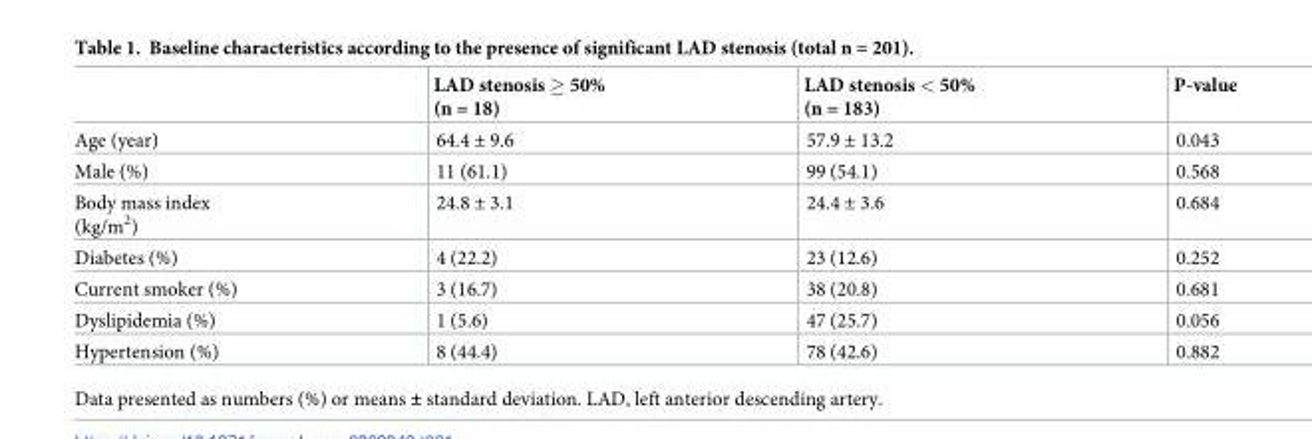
<table><thead><tr><td></td><td>LAD stenosis ≥ 50% (n = 18)</td><td>LAD stenosis &lt; 50% (n = 183)</td><td>P-value</td></tr></thead><tbody><tr><td>Age (year)</td><td>64.4 ± 9.6</td><td>57.9 ± 13.2</td><td>0.043</td></tr><tr><td>Male (%)</td><td>11 (61.1)</td><td>99 (54.1)</td><td>0.568</td></tr><tr><td>Body mass index (kg/m<sup>2</sup>)</td><td>24.8 ± 3.1</td><td>24.4 ± 3.6</td><td>0.684</td></tr><tr><td>Diabetes (%)</td><td>4 (22.2)</td><td>23 (12.6)</td><td>0.252</td></tr><tr><td>Current smoker (%)</td><td>3 (16.7)</td><td>38 (20.8)</td><td>0.681</td></tr><tr><td>Dyslipidemia (%)</td><td>1 (5.6)</td><td>47 (25.7)</td><td>0.056</td></tr><tr><td>Hypertension (%)</td><td>8 (44.4)</td><td>78 (42.6)</td><td>0.882</td></tr></tbody></table>